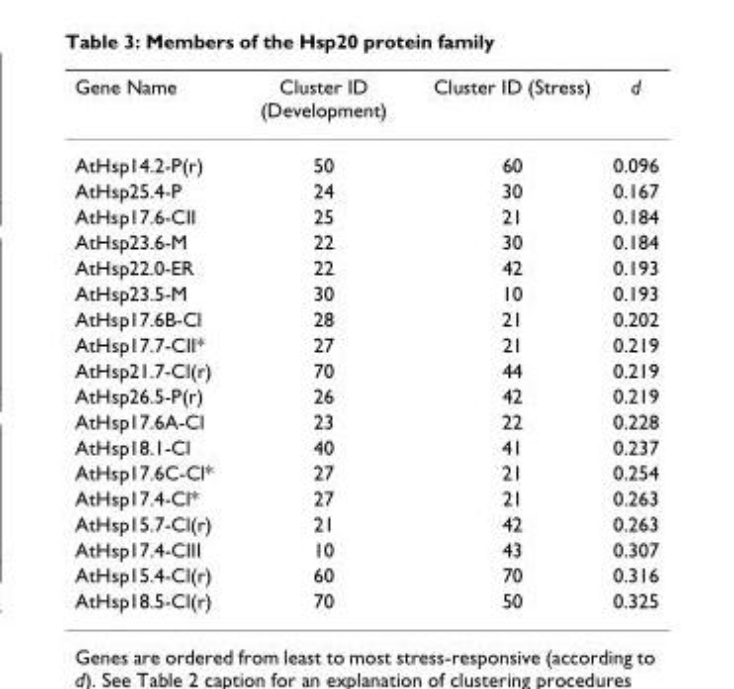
<table><thead><tr><td>Gene Name</td><td>Cluster ID (Development)</td><td>Cluster ID (Stress)</td><td>d</td></tr></thead><tbody><tr><td>AtHsp14.2-P(r)</td><td>50</td><td>60</td><td>0.096</td></tr><tr><td>AtHsp25.4-P</td><td>24</td><td>30</td><td>0.167</td></tr><tr><td>AtHsp17.6-CII</td><td>25</td><td>21</td><td>0.184</td></tr><tr><td>AtHsp23.6-M</td><td>22</td><td>30</td><td>0.184</td></tr><tr><td>AtHsp22.0-ER</td><td>22</td><td>42</td><td>0.193</td></tr><tr><td>AtHsp23.5-M</td><td>30</td><td>10</td><td>0.193</td></tr><tr><td>AtHsp17.6B-Cl</td><td>28</td><td>21</td><td>0.202</td></tr><tr><td>AtHsp17.7-CII*</td><td>27</td><td>21</td><td>0.219</td></tr><tr><td>AtHsp21.7-Cl(r)</td><td>70</td><td>44</td><td>0.219</td></tr><tr><td>AtHsp26.5-P(r)</td><td>26</td><td>42</td><td>0.219</td></tr><tr><td>AtHsp17.6A-Cl</td><td>23</td><td>22</td><td>0.228</td></tr><tr><td>AtHsp18.1-Cl</td><td>40</td><td>41</td><td>0.237</td></tr><tr><td>AtHsp17.6C-Cl*</td><td>27</td><td>21</td><td>0.254</td></tr><tr><td>AtHsp17.4-Cl*</td><td>27</td><td>21</td><td>0.263</td></tr><tr><td>AtHsp15.7-Cl(r)</td><td>21</td><td>42</td><td>0.263</td></tr><tr><td>AtHsp17.4-CIII</td><td>10</td><td>43</td><td>0.307</td></tr><tr><td>AtHsp15.4-Cl(r)</td><td>60</td><td>70</td><td>0.316</td></tr><tr><td>AtHsp18.5-Cl(r)</td><td>70</td><td>50</td><td>0.325</td></tr></tbody></table>